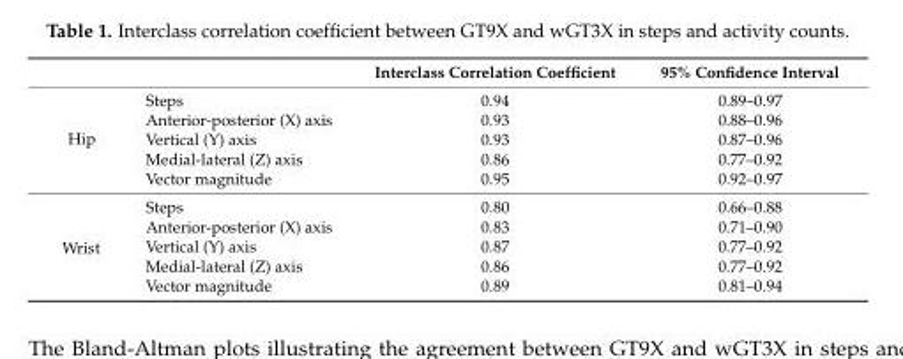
<table><thead><tr><td></td><td></td><td>Interclass Correlation Coefficient</td><td>95% Confidence Interval</td></tr></thead><tbody><tr><td rowspan="5">Hip</td><td>Steps</td><td>0.94</td><td>0.89–0.97</td></tr><tr><td>Anterior-posterior (X) axis</td><td>0.93</td><td>0.88–0.96</td></tr><tr><td>Vertical (Y) axis</td><td>0.93</td><td>0.87–0.96</td></tr><tr><td>Medial-lateral (Z) axis</td><td>0.86</td><td>0.77–0.92</td></tr><tr><td>Vector magnitude</td><td>0.95</td><td>0.92–0.97</td></tr><tr><td rowspan="5">Wrist</td><td>Steps</td><td>0.80</td><td>0.66–0.88</td></tr><tr><td>Anterior-posterior (X) axis</td><td>0.83</td><td>0.71–0.90</td></tr><tr><td>Vertical (Y) axis</td><td>0.87</td><td>0.77–0.92</td></tr><tr><td>Medial-lateral (Z) axis</td><td>0.86</td><td>0.77–0.92</td></tr><tr><td>Vector magnitude</td><td>0.89</td><td>0.81–0.94</td></tr></tbody></table>